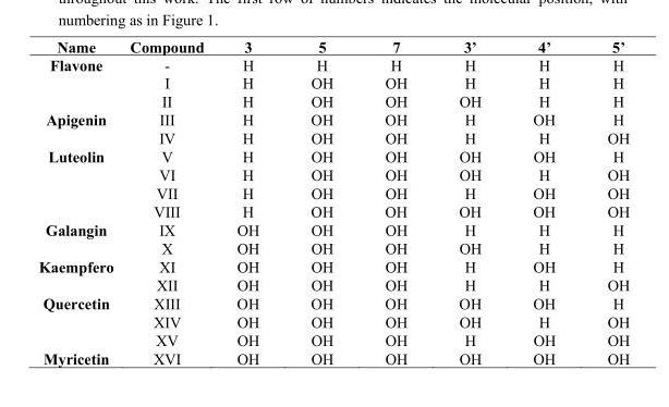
<table><thead><tr><td>Name</td><td>Compound</td><td>3</td><td>5</td><td>7</td><td>3’</td><td>4’</td><td>5’</td></tr></thead><tbody><tr><td rowspan="3">Flavone</td><td>-</td><td>H</td><td>H</td><td>H</td><td>H</td><td>H</td><td>H</td></tr><tr><td>I</td><td>H</td><td>OH</td><td>OH</td><td>H</td><td>H</td><td>H</td></tr><tr><td>II</td><td>H</td><td>OH</td><td>OH</td><td>OH</td><td>H</td><td>H</td></tr><tr><td rowspan="2">Apigenin</td><td>III</td><td>H</td><td>OH</td><td>OH</td><td>H</td><td>OH</td><td>H</td></tr><tr><td>IV</td><td>H</td><td>OH</td><td>OH</td><td>H</td><td>H</td><td>OH</td></tr><tr><td rowspan="4">Luteolin</td><td>V</td><td>H</td><td>OH</td><td>OH</td><td>OH</td><td>OH</td><td>H</td></tr><tr><td>VI</td><td>H</td><td>OH</td><td>OH</td><td>OH</td><td>H</td><td>OH</td></tr><tr><td>VII</td><td>H</td><td>OH</td><td>OH</td><td>H</td><td>OH</td><td>OH</td></tr><tr><td>VIII</td><td>H</td><td>OH</td><td>OH</td><td>OH</td><td>OH</td><td>OH</td></tr><tr><td rowspan="2">Galangin</td><td>IX</td><td>OH</td><td>OH</td><td>OH</td><td>H</td><td>H</td><td>H</td></tr><tr><td>X</td><td>OH</td><td>OH</td><td>OH</td><td>OH</td><td>H</td><td>H</td></tr><tr><td rowspan="2">Kaempfero</td><td>XI</td><td>OH</td><td>OH</td><td>OH</td><td>H</td><td>OH</td><td>H</td></tr><tr><td>XII</td><td>OH</td><td>OH</td><td>OH</td><td>H</td><td>H</td><td>OH</td></tr><tr><td rowspan="3">Quercetin</td><td>XIII</td><td>OH</td><td>OH</td><td>OH</td><td>OH</td><td>OH</td><td>H</td></tr><tr><td>XIV</td><td>OH</td><td>OH</td><td>OH</td><td>OH</td><td>H</td><td>OH</td></tr><tr><td>XV</td><td>OH</td><td>OH</td><td>OH</td><td>H</td><td>OH</td><td>OH</td></tr><tr><td>Myricetin</td><td>XVI</td><td>OH</td><td>OH</td><td>OH</td><td>OH</td><td>OH</td><td>OH</td></tr></tbody></table>